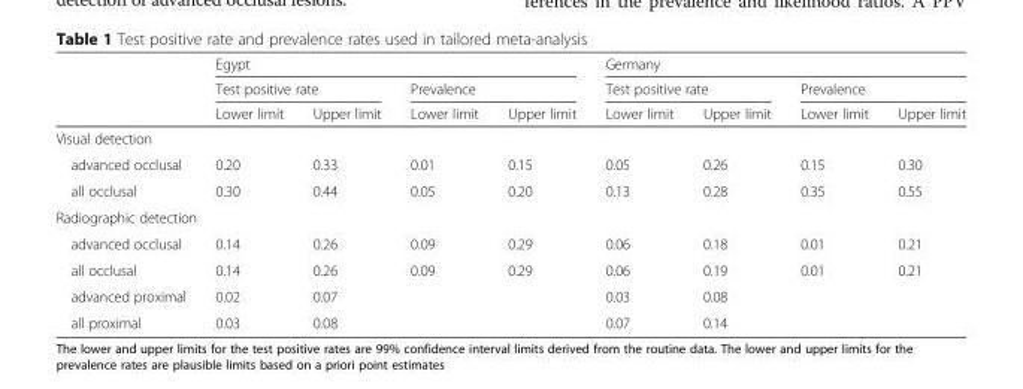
<table><thead><tr><td rowspan="3"></td><td colspan="4">Egypt</td><td colspan="4">Germany</td></tr><tr><td colspan="2">Test positive rate</td><td colspan="2">Prevalence</td><td colspan="2">Test positive rate</td><td colspan="2">Prevalence</td></tr><tr><td>Lower limit</td><td>Upper limit</td><td>Lower limit</td><td>Upper limit</td><td>Lower limit</td><td>Upper limit</td><td>Lower limit</td><td>Upper limit</td></tr></thead><tbody><tr><td colspan="9">Visual detection</td></tr><tr><td>advanced occlusal</td><td>0.20</td><td>0.33</td><td>0.01</td><td>0.15</td><td>0.05</td><td>0.26</td><td>0.15</td><td>0.30</td></tr><tr><td>all occlusal</td><td>0.30</td><td>0.44</td><td>0.05</td><td>0.20</td><td>0.13</td><td>0.28</td><td>0.35</td><td>0.55</td></tr><tr><td colspan="9">Radiographic detection</td></tr><tr><td>advanced occlusal</td><td>0.14</td><td>0.26</td><td>0.09</td><td>0.29</td><td>0.06</td><td>0.18</td><td>0.01</td><td>0.21</td></tr><tr><td>all occlusal</td><td>0.14</td><td>0.26</td><td>0.09</td><td>0.29</td><td>0.06</td><td>0.19</td><td>0.01</td><td>0.21</td></tr><tr><td>advanced proximal</td><td>0.02</td><td>0.07</td><td></td><td></td><td>0.03</td><td>0.08</td><td></td><td></td></tr><tr><td>all proximal</td><td>0.03</td><td>0.08</td><td></td><td></td><td>0.07</td><td>0.14</td><td></td><td></td></tr></tbody></table>